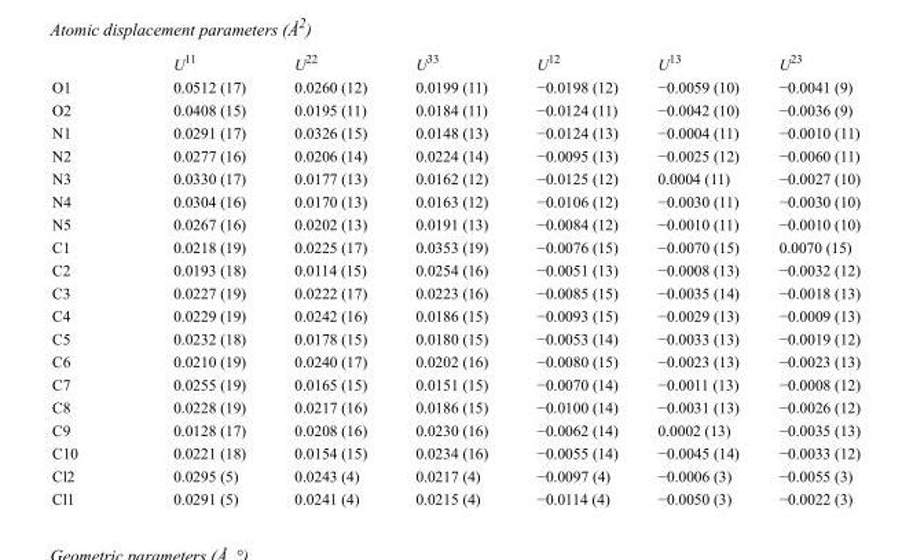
<table><thead><tr><td></td><td>U<sup>11</sup></td><td>U<sup>22</sup></td><td>U<sup>33</sup></td><td>U<sup>12</sup></td><td>U<sup>13</sup></td><td>U<sup>23</sup></td></tr></thead><tbody><tr><td>O1</td><td>0.0512 (17)</td><td>0.0260 (12)</td><td>0.0199 (11)</td><td>−0.0198 (12)</td><td>−0.0059 (10)</td><td>−0.0041 (9)</td></tr><tr><td>O2</td><td>0.0408 (15)</td><td>0.0195 (11)</td><td>0.0184 (11)</td><td>−0.0124 (11)</td><td>−0.0042 (10)</td><td>−0.0036 (9)</td></tr><tr><td>N1</td><td>0.0291 (17)</td><td>0.0326 (15)</td><td>0.0148 (13)</td><td>−0.0124 (13)</td><td>−0.0004 (11)</td><td>−0.0010 (11)</td></tr><tr><td>N2</td><td>0.0277 (16)</td><td>0.0206 (14)</td><td>0.0224 (14)</td><td>−0.0095 (13)</td><td>−0.0025 (12)</td><td>−0.0060 (11)</td></tr><tr><td>N3</td><td>0.0330 (17)</td><td>0.0177 (13)</td><td>0.0162 (12)</td><td>−0.0125 (12)</td><td>0.0004 (11)</td><td>−0.0027 (10)</td></tr><tr><td>N4</td><td>0.0304 (16)</td><td>0.0170 (13)</td><td>0.0163 (12)</td><td>−0.0106 (12)</td><td>−0.0030 (11)</td><td>−0.0030 (10)</td></tr><tr><td>N5</td><td>0.0267 (16)</td><td>0.0202 (13)</td><td>0.0191 (13)</td><td>−0.0084 (12)</td><td>−0.0010 (11)</td><td>−0.0010 (10)</td></tr><tr><td>C1</td><td>0.0218 (19)</td><td>0.0225 (17)</td><td>0.0353 (19)</td><td>−0.0076 (15)</td><td>−0.0070 (15)</td><td>0.0070 (15)</td></tr><tr><td>C2</td><td>0.0193 (18)</td><td>0.0114 (15)</td><td>0.0254 (16)</td><td>−0.0051 (13)</td><td>−0.0008 (13)</td><td>−0.0032 (12)</td></tr><tr><td>C3</td><td>0.0227 (19)</td><td>0.0222 (17)</td><td>0.0223 (16)</td><td>−0.0085 (15)</td><td>−0.0035 (14)</td><td>−0.0018 (13)</td></tr><tr><td>C4</td><td>0.0229 (19)</td><td>0.0242 (16)</td><td>0.0186 (15)</td><td>−0.0093 (15)</td><td>−0.0029 (13)</td><td>−0.0009 (13)</td></tr><tr><td>C5</td><td>0.0232 (18)</td><td>0.0178 (15)</td><td>0.0180 (15)</td><td>−0.0053 (14)</td><td>−0.0033 (13)</td><td>−0.0019 (12)</td></tr><tr><td>C6</td><td>0.0210 (19)</td><td>0.0240 (17)</td><td>0.0202 (16)</td><td>−0.0080 (15)</td><td>−0.0023 (13)</td><td>−0.0023 (13)</td></tr><tr><td>C7</td><td>0.0255 (19)</td><td>0.0165 (15)</td><td>0.0151 (15)</td><td>−0.0070 (14)</td><td>−0.0011 (13)</td><td>−0.0008 (12)</td></tr><tr><td>C8</td><td>0.0228 (19)</td><td>0.0217 (16)</td><td>0.0186 (15)</td><td>−0.0100 (14)</td><td>−0.0031 (13)</td><td>−0.0026 (12)</td></tr><tr><td>C9</td><td>0.0128 (17)</td><td>0.0208 (16)</td><td>0.0230 (16)</td><td>−0.0062 (14)</td><td>0.0002 (13)</td><td>−0.0035 (13)</td></tr><tr><td>C10</td><td>0.0221 (18)</td><td>0.0154 (15)</td><td>0.0234 (16)</td><td>−0.0055 (14)</td><td>−0.0045 (14)</td><td>−0.0033 (12)</td></tr><tr><td>Cl2</td><td>0.0295 (5)</td><td>0.0243 (4)</td><td>0.0217 (4)</td><td>−0.0097 (4)</td><td>−0.0006 (3)</td><td>−0.0055 (3)</td></tr><tr><td>Cl1</td><td>0.0291 (5)</td><td>0.0241 (4)</td><td>0.0215 (4)</td><td>−0.0114 (4)</td><td>−0.0050 (3)</td><td>−0.0022 (3)</td></tr></tbody></table>